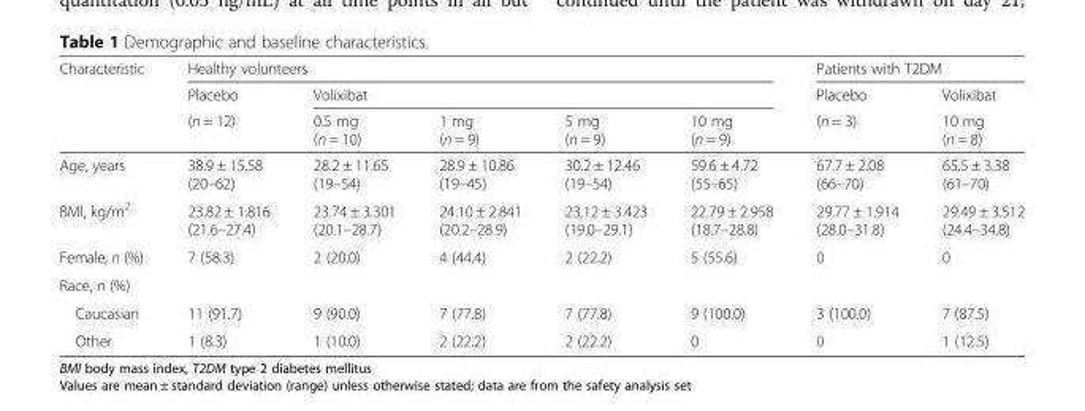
<table><thead><tr><td rowspan="3">Characteristic</td><td colspan="5">Healthy volunteers</td><td colspan="2">Patients with T2DM</td></tr><tr><td rowspan="2">Placebo (n = 12)</td><td colspan="4">Volixibat</td><td rowspan="2">Placebo (n = 3)</td><td rowspan="2">Volixibat 10 mg (n = 8)</td></tr><tr><td>0.5 mg (n = 10)</td><td>1 mg (n = 9)</td><td>5 mg (n = 9)</td><td>10 mg (n = 9)</td></tr></thead><tbody><tr><td>Age, years</td><td>38.9 ± 15.58 (20–62)</td><td>28.2 ± 11.65 (19–54)</td><td>28.9 ± 10.86 (19–45)</td><td>30.2 ± 12.46 (19–54)</td><td>59.6 ± 4.72 (55–65)</td><td>67.7 ± 2.08 (66–70)</td><td>65.5 ± 3.38 (61–70)</td></tr><tr><td>BMI, kg/m<sup>2</sup></td><td>23.82 ± 1.816 (21.6–27.4)</td><td>23.74 ± 3.301 (20.1–28.7)</td><td>24.10 ± 2.841 (20.2–28.9)</td><td>23.12 ± 3.423 (19.0–29.1)</td><td>22.79 ± 2.958 (18.7–28.8)</td><td>29.77 ± 1.914 (28.0–31.8)</td><td>29.49 ± 3.512 (24.4–34.8)</td></tr><tr><td>Female, n (%)</td><td>7 (58.3)</td><td>2 (20.0)</td><td>4 (44.4)</td><td>2 (22.2)</td><td>5 (55.6)</td><td>0</td><td>0</td></tr><tr><td colspan="8">Race, n (%)</td></tr><tr><td>Caucasian</td><td>11 (91.7)</td><td>9 (90.0)</td><td>7 (77.8)</td><td>7 (77.8)</td><td>9 (100.0)</td><td>3 (100.0)</td><td>7 (87.5)</td></tr><tr><td>Other</td><td>1 (8.3)</td><td>1 (10.0)</td><td>2 (22.2)</td><td>2 (22.2)</td><td>0</td><td>0</td><td>1 (12.5)</td></tr></tbody></table>